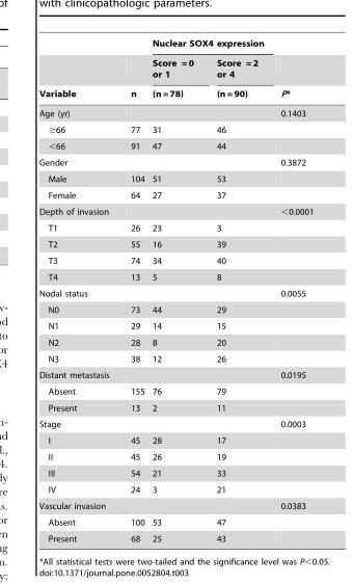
<table><thead><tr><td rowspan="3">Variable</td><td rowspan="3">n</td><td colspan="2">Nuclear SOX4 expression</td><td rowspan="3">P*</td></tr><tr><td rowspan="2">Score = 0 or 1 (n = 78)</td><td rowspan="2">Score = 2 or 4 (n = 90)</td></tr><tr></tr></thead><tbody><tr><td>Age (yr)</td><td></td><td></td><td></td><td>0.1403</td></tr><tr><td>≥66</td><td>77</td><td>31</td><td>46</td><td></td></tr><tr><td>&lt;66</td><td>91</td><td>47</td><td>44</td><td></td></tr><tr><td>Gender</td><td></td><td></td><td></td><td>0.3872</td></tr><tr><td>Male</td><td>104</td><td>51</td><td>53</td><td></td></tr><tr><td>Female</td><td>64</td><td>27</td><td>37</td><td></td></tr><tr><td>Depth of invasion</td><td></td><td></td><td></td><td>&lt;0.0001</td></tr><tr><td>T1</td><td>26</td><td>23</td><td>3</td><td></td></tr><tr><td>T2</td><td>55</td><td>16</td><td>39</td><td></td></tr><tr><td>T3</td><td>74</td><td>34</td><td>40</td><td></td></tr><tr><td>T4</td><td>13</td><td>5</td><td>8</td><td></td></tr><tr><td>Nodal status</td><td></td><td></td><td></td><td>0.0055</td></tr><tr><td>N0</td><td>73</td><td>44</td><td>29</td><td></td></tr><tr><td>N1</td><td>29</td><td>14</td><td>15</td><td></td></tr><tr><td>N2</td><td>28</td><td>8</td><td>20</td><td></td></tr><tr><td>N3</td><td>38</td><td>12</td><td>26</td><td></td></tr><tr><td>Distant metastasis</td><td></td><td></td><td></td><td>0.0195</td></tr><tr><td>Absent</td><td>155</td><td>76</td><td>79</td><td></td></tr><tr><td>Present</td><td>13</td><td>2</td><td>11</td><td></td></tr><tr><td>Stage</td><td></td><td></td><td></td><td>0.0003</td></tr><tr><td>I</td><td>45</td><td>28</td><td>17</td><td></td></tr><tr><td>II</td><td>45</td><td>26</td><td>19</td><td></td></tr><tr><td>III</td><td>54</td><td>21</td><td>33</td><td></td></tr><tr><td>IV</td><td>24</td><td>3</td><td>21</td><td></td></tr><tr><td>Vascular invasion</td><td></td><td></td><td></td><td>0.0383</td></tr><tr><td>Absent</td><td>100</td><td>53</td><td>47</td><td></td></tr><tr><td>Present</td><td>68</td><td>25</td><td>43</td><td></td></tr></tbody></table>